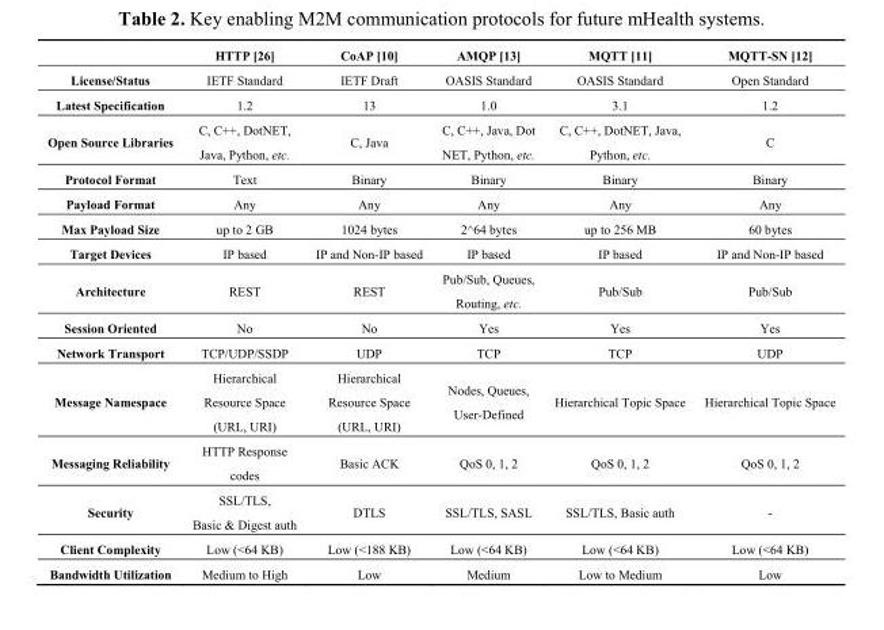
<table><thead><tr><td></td><td>HTTP [26]</td><td>CoAP [10]</td><td>AMQP [13]</td><td>MQTT [11]</td><td>MQTT-SN [12]</td></tr></thead><tbody><tr><td>License/Status</td><td>IETF Standard</td><td>IETF Draft</td><td>OASIS Standard</td><td>OASIS Standard</td><td>Open Standard</td></tr><tr><td>Latest Specification</td><td>1.2</td><td>13</td><td>1.0</td><td>3.1</td><td>1.2</td></tr><tr><td>Open Source Libraries</td><td>C, C++, DotNET, Java, Python, etc.</td><td>C, Java</td><td>C, C++, Java, Dot NET, Python, etc.</td><td>C, C++, DotNET, Java, Python, etc.</td><td>C</td></tr><tr><td>Protocol Format</td><td>Text</td><td>Binary</td><td>Binary</td><td>Binary</td><td>Binary</td></tr><tr><td>Payload Format</td><td>Any</td><td>Any</td><td>Any</td><td>Any</td><td>Any</td></tr><tr><td>Max Payload Size</td><td>up to 2 GB</td><td>1024 bytes</td><td>2<sup>∧</sup>64 bytes</td><td>up to 256 MB</td><td>60 bytes</td></tr><tr><td>Target Devices</td><td>IP based</td><td>IP and Non-IP based</td><td>IP based</td><td>IP based</td><td>IP and Non-IP based</td></tr><tr><td>Architecture</td><td>REST</td><td>REST</td><td>Pub/Sub, Queues, Routing, etc.</td><td>Pub/Sub</td><td>Pub/Sub</td></tr><tr><td>Session Oriented</td><td>No</td><td>No</td><td>Yes</td><td>Yes</td><td>Yes</td></tr><tr><td>Network Transport</td><td>TCP/UDP/SSDP</td><td>UDP</td><td>TCP</td><td>TCP</td><td>UDP</td></tr><tr><td>Message Namespace</td><td>Hierarchical Resource Space (URL, URI)</td><td>Hierarchical Resource Space (URL, URI)</td><td>Nodes, Queues, User-Defined</td><td>Hierarchical Topic Space</td><td>Hierarchical Topic Space</td></tr><tr><td>Messaging Reliability</td><td>HTTP Response codes</td><td>Basic ACK</td><td>QoS 0, 1, 2</td><td>QoS 0, 1, 2</td><td>QoS 0, 1, 2</td></tr><tr><td>Security</td><td>SSL/TLS, Basic &amp; Digest auth</td><td>DTLS</td><td>SSL/TLS, SASL</td><td>SSL/TLS, Basic auth</td><td>-</td></tr><tr><td>Client Complexity</td><td>Low (&lt;64 KB)</td><td>Low (&lt;188 KB)</td><td>Low (&lt;64 KB)</td><td>Low (&lt;64 KB)</td><td>Low (&lt;64 KB)</td></tr><tr><td>Bandwidth Utilization</td><td>Medium to High</td><td>Low</td><td>Medium</td><td>Low to Medium</td><td>Low</td></tr></tbody></table>